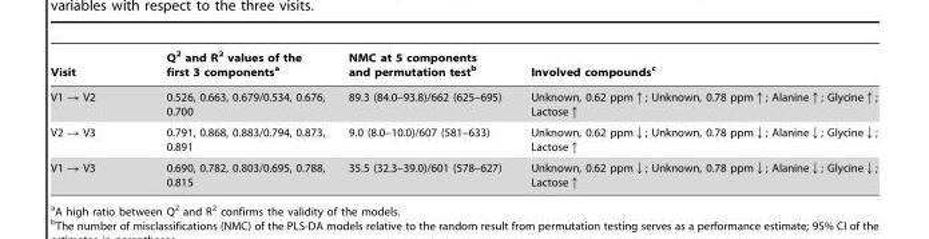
<table><thead><tr><td>Visit</td><td>Q<sup>2</sup> and R<sup>2</sup> values of the first 3 components<sup>a</sup></td><td>NMC at 5 components and permutation test<sup>b</sup></td><td>Involved compounds<sup>c</sup></td></tr></thead><tbody><tr><td>V1 → V2</td><td>0.526, 0.663, 0.679/0.534, 0.676, 0.700</td><td>89.3 (84.0–93.8)/662 (625–695)</td><td>Unknown, 0.62 ppm↑; Unknown, 0.78 ppm↑; Alanine↑; Glycine↑; Lactose↑</td></tr><tr><td>V2 → V3</td><td>0.791, 0.868, 0.883/0.794, 0.873, 0.891</td><td>9.0 (8.0–10.0)/607 (581–633)</td><td>Unknown, 0.62 ppm↓; Unknown, 0.78 ppm↓; Alanine↓; Glycine↓; Lactose↑</td></tr><tr><td>V1 → V3</td><td>0.690, 0.782, 0.803/0.695, 0.788, 0.815</td><td>35.5 (32.3–39.0)/601 (578–627)</td><td>Unknown, 0.62 ppm↓; Unknown, 0.78 ppm↓; Alanine↓; Glycine↓; Lactose↑</td></tr></tbody></table>